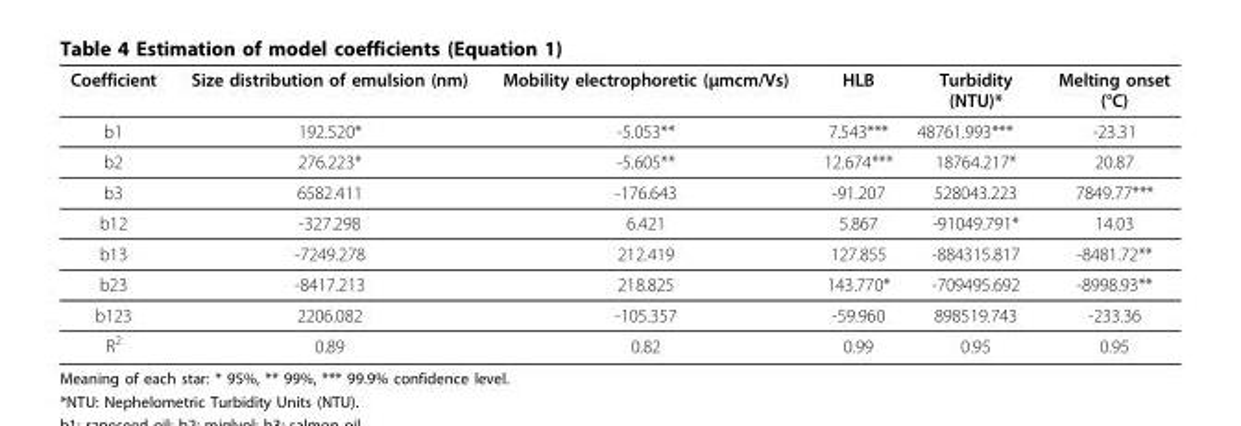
<table><thead><tr><td>Coefficient</td><td>Size distribution of emulsion (nm)</td><td>Mobility electrophoretic (μmcm/Vs)</td><td>HLB</td><td>Turbidity (NTU)*</td><td>Melting onset (°C)</td></tr></thead><tbody><tr><td>b1</td><td>192.520*</td><td>-5.053**</td><td>7.543***</td><td>48761.993***</td><td>-23.31</td></tr><tr><td>b2</td><td>276.223*</td><td>-5.605**</td><td>12.674***</td><td>18764.217*</td><td>20.87</td></tr><tr><td>b3</td><td>6582.411</td><td>-176.643</td><td>-91.207</td><td>528043.223</td><td>7849.77***</td></tr><tr><td>b12</td><td>-327.298</td><td>6.421</td><td>5.867</td><td>-91049.791*</td><td>14.03</td></tr><tr><td>b13</td><td>-7249.278</td><td>212.419</td><td>127.855</td><td>-884315.817</td><td>-8481.72**</td></tr><tr><td>b23</td><td>-8417.213</td><td>218.825</td><td>143.770*</td><td>-709495.692</td><td>-8998.93**</td></tr><tr><td>b123</td><td>2206.082</td><td>-105.357</td><td>-59.960</td><td>898519.743</td><td>-233.36</td></tr><tr><td>R<sup>2</sup></td><td>0.89</td><td>0.82</td><td>0.99</td><td>0.95</td><td>0.95</td></tr></tbody></table>